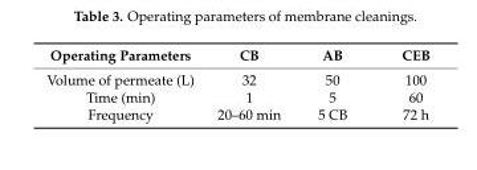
<table><thead><tr><td>Operating Parameters</td><td>CB</td><td>AB</td><td>CEB</td></tr></thead><tbody><tr><td>Volume of permeate (L)</td><td>32</td><td>50</td><td>100</td></tr><tr><td>Time (min)</td><td>1</td><td>5</td><td>60</td></tr><tr><td>Frequency</td><td>20–60 min</td><td>5 CB</td><td>72 h</td></tr></tbody></table>